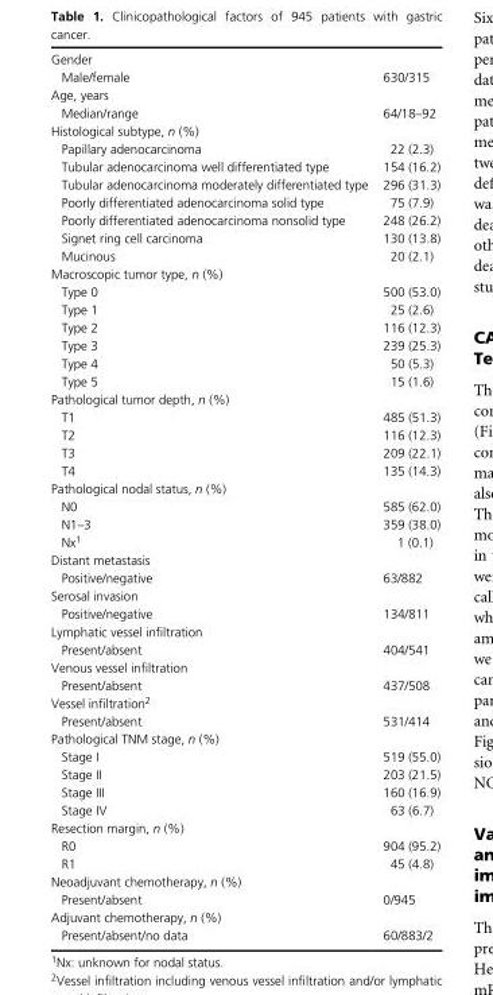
<table><tbody><tr><td colspan="2">Gender</td></tr><tr><td>Male/female</td><td>630/315</td></tr><tr><td colspan="2">Age, years</td></tr><tr><td>Median/range</td><td>64/18–92</td></tr><tr><td colspan="2">Histological subtype, n (%)</td></tr><tr><td>Papillary adenocarcinoma</td><td>22 (2.3)</td></tr><tr><td>Tubular adenocarcinoma well differentiated type</td><td>154 (16.2)</td></tr><tr><td>Tubular adenocarcinoma moderately differentiated type</td><td>296 (31.3)</td></tr><tr><td>Poorly differentiated adenocarcinoma solid type</td><td>75 (7.9)</td></tr><tr><td>Poorly differentiated adenocarcinoma nonsolid type</td><td>248 (26.2)</td></tr><tr><td>Signet ring cell carcinoma</td><td>130 (13.8)</td></tr><tr><td>Mucinous</td><td>20 (2.1)</td></tr><tr><td colspan="2">Macroscopic tumor type, n (%)</td></tr><tr><td>Type 0</td><td>500 (53.0)</td></tr><tr><td>Type 1</td><td>25 (2.6)</td></tr><tr><td>Type 2</td><td>116 (12.3)</td></tr><tr><td>Type 3</td><td>239 (25.3)</td></tr><tr><td>Type 4</td><td>50 (5.3)</td></tr><tr><td>Type 5</td><td>15 (1.6)</td></tr><tr><td colspan="2">Pathological tumor depth, n (%)</td></tr><tr><td>T1</td><td>485 (51.3)</td></tr><tr><td>T2</td><td>116 (12.3)</td></tr><tr><td>T3</td><td>209 (22.1)</td></tr><tr><td>T4</td><td>135 (14.3)</td></tr><tr><td colspan="2">Pathological nodal status, n (%)</td></tr><tr><td>N0</td><td>585 (62.0)</td></tr><tr><td>N1–3</td><td>359 (38.0)</td></tr><tr><td>Nx<sup>1</sup></td><td>1 (0.1)</td></tr><tr><td colspan="2">Distant metastasis</td></tr><tr><td>Positive/negative</td><td>63/882</td></tr><tr><td colspan="2">Serosal invasion</td></tr><tr><td>Positive/negative</td><td>134/811</td></tr><tr><td colspan="2">Lymphatic vessel infiltration</td></tr><tr><td>Present/absent</td><td>404/541</td></tr><tr><td colspan="2">Venous vessel infiltration</td></tr><tr><td>Present/absent</td><td>437/508</td></tr><tr><td colspan="2">Vessel infiltration<sup>2</sup></td></tr><tr><td>Present/absent</td><td>531/414</td></tr><tr><td colspan="2">Pathological TNM stage, n (%)</td></tr><tr><td>Stage I</td><td>519 (55.0)</td></tr><tr><td>Stage II</td><td>203 (21.5)</td></tr><tr><td>Stage III</td><td>160 (16.9)</td></tr><tr><td>Stage IV</td><td>63 (6.7)</td></tr><tr><td colspan="2">Resection margin, n (%)</td></tr><tr><td>R0</td><td>904 (95.2)</td></tr><tr><td>R1</td><td>45 (4.8)</td></tr><tr><td colspan="2">Neoadjuvant chemotherapy, n (%)</td></tr><tr><td>Present/absent</td><td>0/945</td></tr><tr><td colspan="2">Adjuvant chemotherapy, n (%)</td></tr><tr><td>Present/absent/no data</td><td>60/883/2</td></tr></tbody></table>